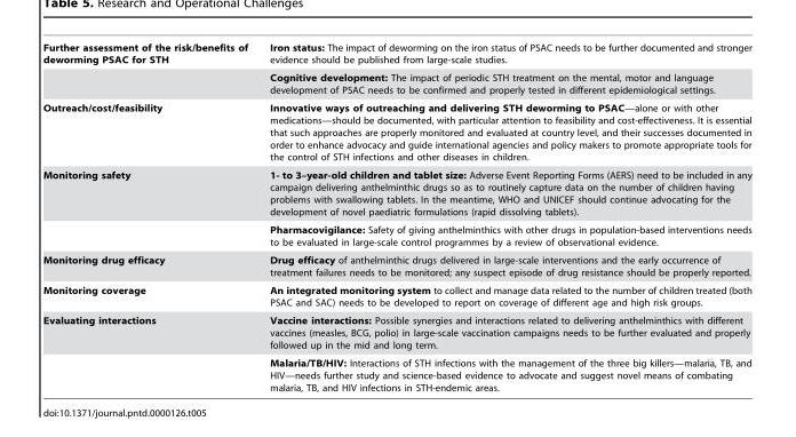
<table><tbody><tr><td rowspan="2">Further assessment of the risk/benefits of deworming PSAC for STH</td><td>Iron status: The impact of deworming on the iron status of PSAC needs to be further documented and stronger evidence should be published from large-scale studies.</td></tr><tr><td>Cognitive development: The impact of periodic STH treatment on the mental, motor and language development of PSAC needs to be confirmed and properly tested in different epidemiological settings.</td></tr><tr><td>Outreach/cost/feasibility</td><td>Innovative ways of outreaching and delivering STH deworming to PSAC—alone or with other medications—should be documented, with particular attention to feasibility and cost-effectiveness. It is essential that such approaches are properly monitored and evaluated at country level, and their successes documented in order to enhance advocacy and guide international agencies and policy makers to promote appropriate tools for the control of STH infections and other diseases in children.</td></tr><tr><td rowspan="2">Monitoring safety</td><td>1- to 3–year-old children and tablet size: Adverse Event Reporting Forms (AERS) need to be included in any campaign delivering anthelminthic drugs so as to routinely capture data on the number of children having problems with swallowing tablets. In the meantime, WHO and UNICEF should continue advocating for the development of novel paediatric formulations (rapid dissolving tablets).</td></tr><tr><td>Pharmacovigilance: Safety of giving anthelminthics with other drugs in population-based interventions needs to be evaluated in large-scale control programmes by a review of observational evidence.</td></tr><tr><td>Monitoring drug efficacy</td><td>Drug efficacy of anthelminthic drugs delivered in large-scale interventions and the early occurrence of treatment failures needs to be monitored; any suspect episode of drug resistance should be properly reported.</td></tr><tr><td>Monitoring coverage</td><td>An integrated monitoring system to collect and manage data related to the number of children treated (both PSAC and SAC) needs to be developed to report on coverage of different age and high risk groups.</td></tr><tr><td rowspan="2">Evaluating interactions</td><td>Vaccine interactions: Possible synergies and interactions related to delivering anthelminthics with different vaccines (measles, BCG, polio) in large-scale vaccination campaigns needs to be further evaluated and properly followed up in the mid and long term.</td></tr><tr><td>Malaria/TB/HIV: Interactions of STH infections with the management of the three big killers—malaria, TB, and HIV—needs further study and science-based evidence to advocate and suggest novel means of combating malaria, TB, and HIV infections in STH-endemic areas.</td></tr></tbody></table>